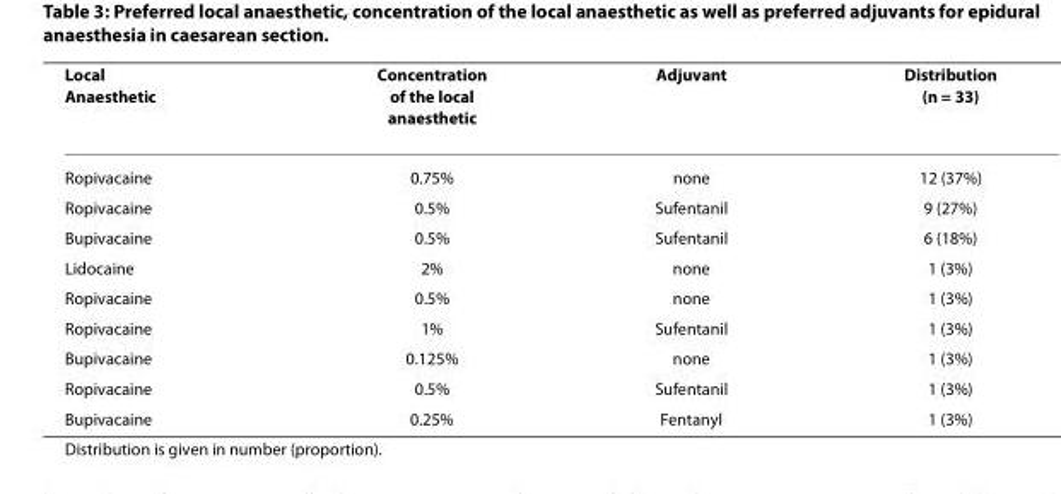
<table><thead><tr><td>Local Anaesthetic</td><td>Concentration of the local anaesthetic</td><td>Adjuvant</td><td>Distribution (n = 33)</td></tr></thead><tbody><tr><td>Ropivacaine</td><td>0.75%</td><td>none</td><td>12 (37%)</td></tr><tr><td>Ropivacaine</td><td>0.5%</td><td>Sufentanil</td><td>9 (27%)</td></tr><tr><td>Bupivacaine</td><td>0.5%</td><td>Sufentanil</td><td>6 (18%)</td></tr><tr><td>Lidocaine</td><td>2%</td><td>none</td><td>1 (3%)</td></tr><tr><td>Ropivacaine</td><td>0.5%</td><td>none</td><td>1 (3%)</td></tr><tr><td>Ropivacaine</td><td>1%</td><td>Sufentanil</td><td>1 (3%)</td></tr><tr><td>Bupivacaine</td><td>0.125%</td><td>none</td><td>1 (3%)</td></tr><tr><td>Ropivacaine</td><td>0.5%</td><td>Sufentanil</td><td>1 (3%)</td></tr><tr><td>Bupivacaine</td><td>0.25%</td><td>Fentanyl</td><td>1 (3%)</td></tr></tbody></table>